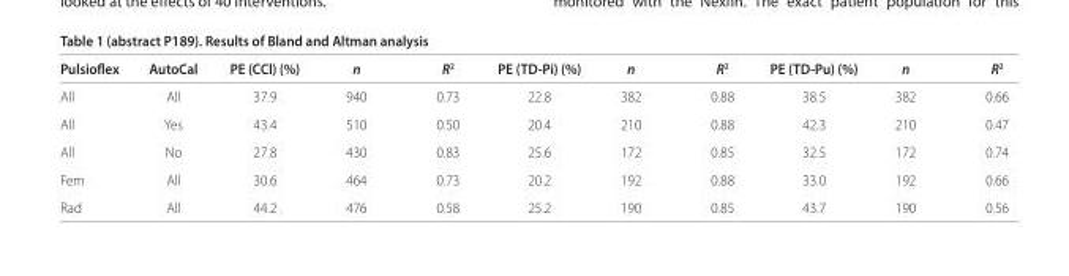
<table><thead><tr><td>Pulsiofl ex</td><td>AutoCal</td><td>PE (CCl) (%)</td><td>n</td><td>R<sup>2</sup></td><td>PE (TD-Pi) (%)</td><td>n</td><td>R<sup>2</sup></td><td>PE (TD-Pu) (%)</td><td>n</td><td>R<sup>2</sup></td></tr></thead><tbody><tr><td>All</td><td>All</td><td>37.9</td><td>940</td><td>0.73</td><td>22.8</td><td>382</td><td>0.88</td><td>38.5</td><td>382</td><td>0.66</td></tr><tr><td>All</td><td>Yes</td><td>43.4</td><td>510</td><td>0.50</td><td>20.4</td><td>210</td><td>0.88</td><td>42.3</td><td>210</td><td>0.47</td></tr><tr><td>All</td><td>No</td><td>27.8</td><td>430</td><td>0.83</td><td>25.6</td><td>172</td><td>0.85</td><td>32.5</td><td>172</td><td>0.74</td></tr><tr><td>Fem</td><td>All</td><td>30.6</td><td>464</td><td>0.73</td><td>20.2</td><td>192</td><td>0.88</td><td>33.0</td><td>192</td><td>0.66</td></tr><tr><td>Rad</td><td>All</td><td>44.2</td><td>476</td><td>0.58</td><td>25.2</td><td>190</td><td>0.85</td><td>43.7</td><td>190</td><td>0.56</td></tr></tbody></table>